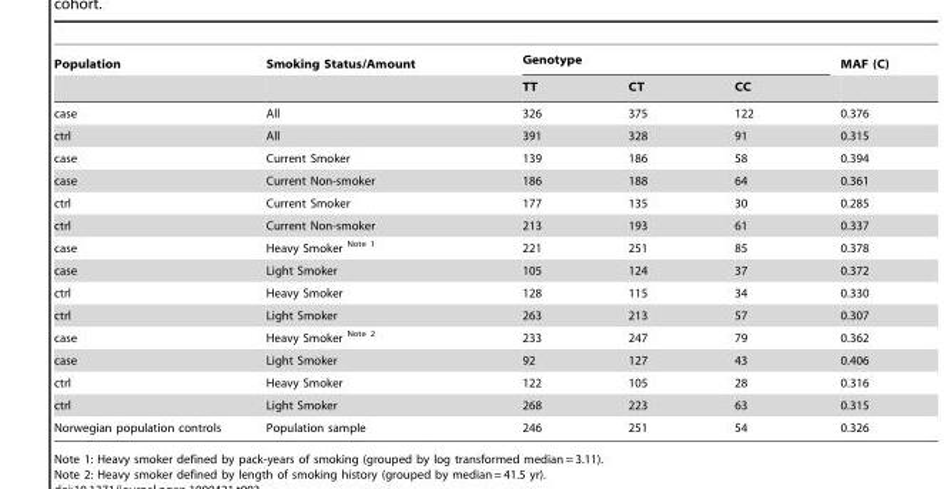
<table><thead><tr><td rowspan="2">Population</td><td rowspan="2">Smoking Status/Amount</td><td colspan="3">Genotype</td><td rowspan="2">MAF (C)</td></tr><tr><td>TT</td><td>CT</td><td>CC</td></tr></thead><tbody><tr><td>case</td><td>All</td><td>326</td><td>375</td><td>122</td><td>0.376</td></tr><tr><td>ctrl</td><td>All</td><td>391</td><td>328</td><td>91</td><td>0.315</td></tr><tr><td>case</td><td>Current Smoker</td><td>139</td><td>186</td><td>58</td><td>0.394</td></tr><tr><td>case</td><td>Current Non-smoker</td><td>186</td><td>188</td><td>64</td><td>0.361</td></tr><tr><td>ctrl</td><td>Current Smoker</td><td>177</td><td>135</td><td>30</td><td>0.285</td></tr><tr><td>ctrl</td><td>Current Non-smoker</td><td>213</td><td>193</td><td>61</td><td>0.337</td></tr><tr><td>case</td><td>Heavy Smoker <sup>Note 1</sup></td><td>221</td><td>251</td><td>85</td><td>0.378</td></tr><tr><td>case</td><td>Light Smoker</td><td>105</td><td>124</td><td>37</td><td>0.372</td></tr><tr><td>ctrl</td><td>Heavy Smoker</td><td>128</td><td>115</td><td>34</td><td>0.330</td></tr><tr><td>ctrl</td><td>Light Smoker</td><td>263</td><td>213</td><td>57</td><td>0.307</td></tr><tr><td>case</td><td>Heavy Smoker <sup>Note 2</sup></td><td>233</td><td>247</td><td>79</td><td>0.362</td></tr><tr><td>case</td><td>Light Smoker</td><td>92</td><td>127</td><td>43</td><td>0.406</td></tr><tr><td>ctrl</td><td>Heavy Smoker</td><td>122</td><td>105</td><td>28</td><td>0.316</td></tr><tr><td>ctrl</td><td>Light Smoker</td><td>268</td><td>223</td><td>63</td><td>0.315</td></tr><tr><td>Norwegian population controls</td><td>Population sample</td><td>246</td><td>251</td><td>54</td><td>0.326</td></tr></tbody></table>